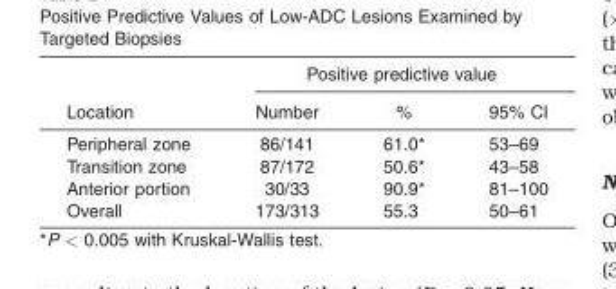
<table><thead><tr><td rowspan="2">Location</td><td colspan="3">Positive predictive value</td></tr><tr><td>Number</td><td>%</td><td>95% CI</td></tr></thead><tbody><tr><td>Peripheral zone</td><td>86/141</td><td>61.0*</td><td>53–69</td></tr><tr><td>Transition zone</td><td>87/172</td><td>50.6*</td><td>43–58</td></tr><tr><td>Anterior portion</td><td>30/33</td><td>90.9*</td><td>81–100</td></tr><tr><td>Overall</td><td>173/313</td><td>55.3</td><td>50–61</td></tr></tbody></table>